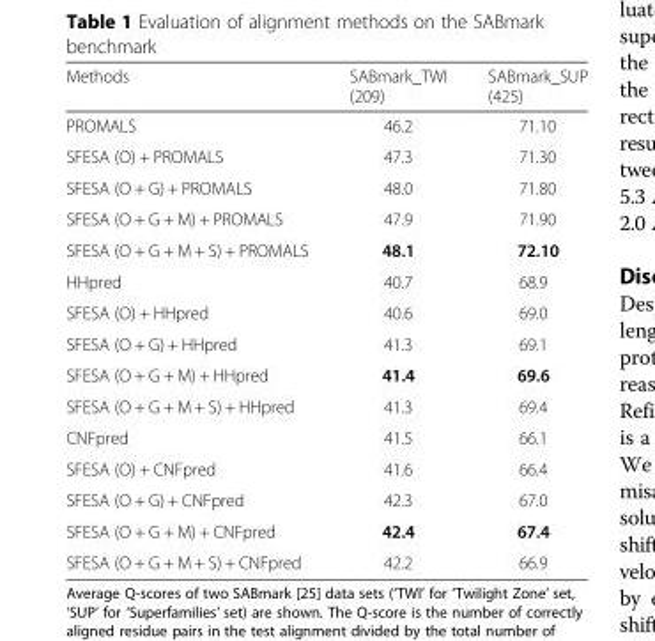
<table><thead><tr><td>Methods</td><td>SABmark_TWI (209)</td><td>SABmark_SUP (425)</td></tr></thead><tbody><tr><td>PROMALS</td><td>46.2</td><td>71.10</td></tr><tr><td>SFESA (O) + PROMALS</td><td>47.3</td><td>71.30</td></tr><tr><td>SFESA (O + G) + PROMALS</td><td>48.0</td><td>71.80</td></tr><tr><td>SFESA (O + G + M) + PROMALS</td><td>47.9</td><td>71.90</td></tr><tr><td>SFESA (O + G + M + S) + PROMALS</td><td>48.1</td><td>72.10</td></tr><tr><td>HHpred</td><td>40.7</td><td>68.9</td></tr><tr><td>SFESA (O) + HHpred</td><td>40.6</td><td>69.0</td></tr><tr><td>SFESA (O + G) + HHpred</td><td>41.3</td><td>69.1</td></tr><tr><td>SFESA (O + G + M) + HHpred</td><td>41.4</td><td>69.6</td></tr><tr><td>SFESA (O + G + M + S) + HHpred</td><td>41.3</td><td>69.4</td></tr><tr><td>CNFpred</td><td>41.5</td><td>66.1</td></tr><tr><td>SFESA (O) + CNFpred</td><td>41.6</td><td>66.4</td></tr><tr><td>SFESA (O + G) + CNFpred</td><td>42.3</td><td>67.0</td></tr><tr><td>SFESA (O + G + M) + CNFpred</td><td>42.4</td><td>67.4</td></tr><tr><td>SFESA (O + G + M + S) + CNFpred</td><td>42.2</td><td>66.9</td></tr></tbody></table>